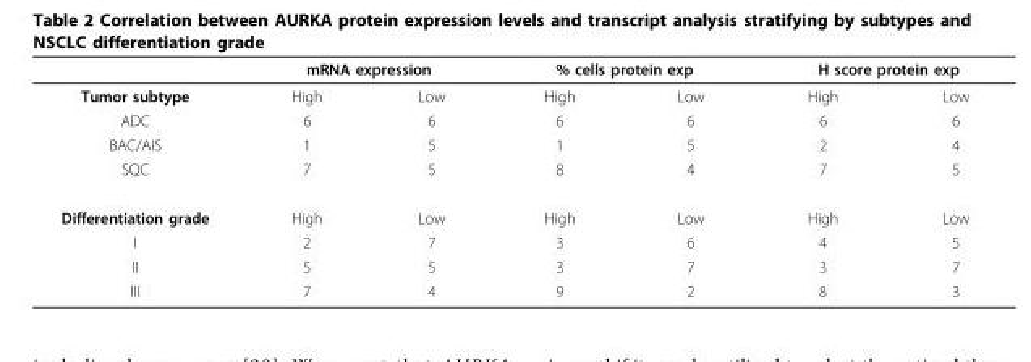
<table><thead><tr><td rowspan="2">Tumor subtype</td><td colspan="2">mRNA expression</td><td colspan="2">% cells protein exp</td><td colspan="2">H score protein exp</td></tr><tr><td>High</td><td>Low</td><td>High</td><td>Low</td><td>High</td><td>Low</td></tr></thead><tbody><tr><td>ADC</td><td>6</td><td>6</td><td>6</td><td>6</td><td>6</td><td>6</td></tr><tr><td>BAC/AIS</td><td>1</td><td>5</td><td>1</td><td>5</td><td>2</td><td>4</td></tr><tr><td>SQC</td><td>7</td><td>5</td><td>8</td><td>4</td><td>7</td><td>5</td></tr><tr><td>Differentiation grade</td><td>High</td><td>Low</td><td>High</td><td>Low</td><td>High</td><td>Low</td></tr><tr><td>I</td><td>2</td><td>7</td><td>3</td><td>6</td><td>4</td><td>5</td></tr><tr><td>II</td><td>5</td><td>5</td><td>3</td><td>7</td><td>3</td><td>7</td></tr><tr><td>III</td><td>7</td><td>4</td><td>9</td><td>2</td><td>8</td><td>3</td></tr></tbody></table>